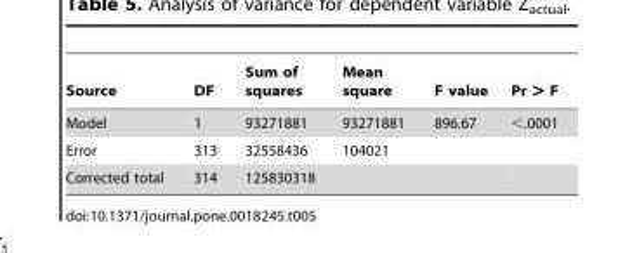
<table><thead><tr><td>Source</td><td>DF</td><td>Sum of squares</td><td>Mean square</td><td>F value</td><td>Pr &gt; F</td></tr></thead><tbody><tr><td>Model</td><td>1</td><td>93271881</td><td>93271881</td><td>896.67</td><td>&lt;.0001</td></tr><tr><td>Error</td><td>313</td><td>32558436</td><td>104021</td><td></td><td></td></tr><tr><td>Corrected total</td><td>314</td><td>125830318</td><td></td><td></td><td></td></tr></tbody></table>